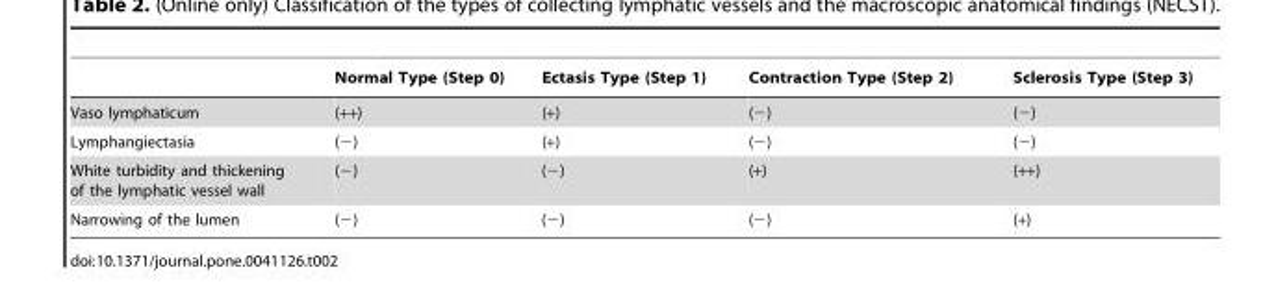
<table><thead><tr><td></td><td>Normal Type (Step 0)</td><td>Ectasis Type (Step 1)</td><td>Contraction Type (Step 2)</td><td>Sclerosis Type (Step 3)</td></tr></thead><tbody><tr><td>Vaso lymphaticum</td><td>(++)</td><td>(+)</td><td>(−)</td><td>(−)</td></tr><tr><td>Lymphangiectasia</td><td>(−)</td><td>(+)</td><td>(−)</td><td>(−)</td></tr><tr><td>White turbidity and thickening of the lymphatic vessel wall</td><td>(−)</td><td>(−)</td><td>(+)</td><td>(++)</td></tr><tr><td>Narrowing of the lumen</td><td>(−)</td><td>(−)</td><td>(−)</td><td>(+)</td></tr></tbody></table>